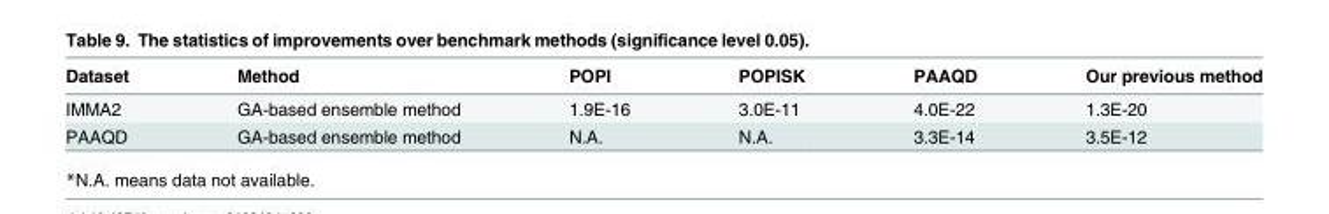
<table><thead><tr><td>Dataset</td><td>Method</td><td>POPI</td><td>POPISK</td><td>PAAQD</td><td>Our previous method</td></tr></thead><tbody><tr><td>IMMA2</td><td>GA-based ensemble method</td><td>1.9E-16</td><td>3.0E-11</td><td>4.0E-22</td><td>1.3E-20</td></tr><tr><td>PAAQD</td><td>GA-based ensemble method</td><td>N.A.</td><td>N.A.</td><td>3.3E-14</td><td>3.5E-12</td></tr></tbody></table>